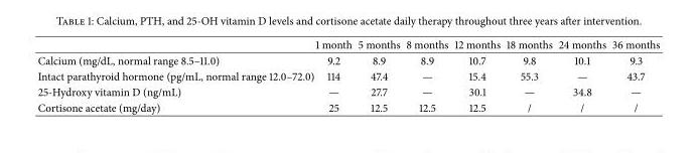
<table><thead><tr><td></td><td>1 month</td><td>5 months</td><td>8 months</td><td>12 months</td><td>18 months</td><td>24 months</td><td>36 months</td></tr></thead><tbody><tr><td>Calcium (mg/dL, normal range 8.5–11.0)</td><td>9.2</td><td>8.9</td><td>8.9</td><td>10.7</td><td>9.8</td><td>10.1</td><td>9.3</td></tr><tr><td>Intact parathyroid hormone (pg/mL, normal range 12.0–72.0)</td><td>114</td><td>47.4</td><td>—</td><td>15.4</td><td>55.3</td><td>—</td><td>43.7</td></tr><tr><td>25-Hydroxy vitamin D (ng/mL)</td><td>—</td><td>27.7</td><td>—</td><td>30.1</td><td>—</td><td>34.8</td><td>—</td></tr><tr><td>Cortisone acetate (mg/day)</td><td>25</td><td>12.5</td><td>12.5</td><td>12.5</td><td>/</td><td>/</td><td>/</td></tr></tbody></table>